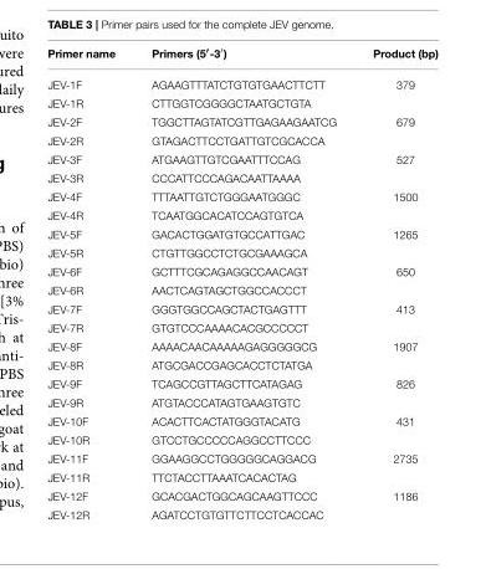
<table><thead><tr><td>Primer name</td><td>Primers (5′-3′)</td><td>Product (bp)</td></tr></thead><tbody><tr><td>JEV-1F</td><td>AGAAGTTTATCTGTGTGAACTTCTT</td><td>379</td></tr><tr><td>JEV-1R</td><td>CTTGGTCGGGGCTAATGCTGTA</td><td></td></tr><tr><td>JEV-2F</td><td>TGGCTTAGTATCGTTGAGAAGAATCG</td><td>679</td></tr><tr><td>JEV-2R</td><td>GTAGACTTCCTGATTGTCGCACCA</td><td></td></tr><tr><td>JEV-3F</td><td>ATGAAGTTGTCGAATTTCCAG</td><td>527</td></tr><tr><td>JEV-3R</td><td>CCCATTCCCAGACAATTAAAA</td><td></td></tr><tr><td>JEV-4F</td><td>TTTAATTGTCTGGGAATGGGC</td><td>1500</td></tr><tr><td>JEV-4R</td><td>TCAATGGCACATCCAGTGTCA</td><td></td></tr><tr><td>JEV-5F</td><td>GACACTGGATGTGCCATTGAC</td><td>1265</td></tr><tr><td>JEV-5R</td><td>CTGTTGGCCTCTGCGAAAGCA</td><td></td></tr><tr><td>JEV-6F</td><td>GCTTTCGCAGAGGCCAACAGT</td><td>650</td></tr><tr><td>JEV-6R</td><td>AACTCAGTAGCTGGCCACCCT</td><td></td></tr><tr><td>JEV-7F</td><td>GGGTGGCCAGCTACTGAGTTT</td><td>413</td></tr><tr><td>JEV-7R</td><td>GTGTCCCAAAACACGCCCCCT</td><td></td></tr><tr><td>JEV-8F</td><td>AAAACAACAAAAAGAGGGGGCG</td><td>1907</td></tr><tr><td>JEV-8R</td><td>ATGCGACCGAGCACCTCTATGA</td><td></td></tr><tr><td>JEV-9F</td><td>TCAGCCGTTAGCTTCATAGAG</td><td>826</td></tr><tr><td>JEV-9R</td><td>ATGTACCCATAGTGAAGTGTC</td><td></td></tr><tr><td>JEV-10F</td><td>ACACTTCACTATGGGTACATG</td><td>431</td></tr><tr><td>JEV-10R</td><td>GTCCTGCCCCCAGGCCTTCCC</td><td></td></tr><tr><td>JEV-11F</td><td>GGAAGGCCTGGGGGCAGGACG</td><td>2735</td></tr><tr><td>JEV-11R</td><td>TTCTACCTTAAATCACACTAG</td><td></td></tr><tr><td>JEV-12F</td><td>GCACGACTGGCAGCAAGTTCCC</td><td>1186</td></tr><tr><td>JEV-12R</td><td>AGATCCTGTGTTCTTCCTCACCAC</td><td></td></tr></tbody></table>